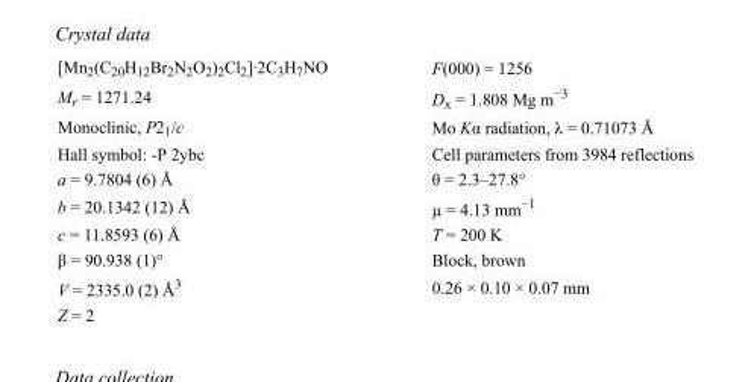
<table><tbody><tr><td>[Mn<sub>2</sub>(C<sub>20</sub>H<sub>12</sub>Br<sub>2</sub>N<sub>2</sub>O<sub>2</sub>)<sub>2</sub>Cl<sub>2</sub>]·2C<sub>3</sub>H<sub>7</sub>NO</td><td>F(000) = 1256</td></tr><tr><td>M<sub>r</sub> = 1271.24</td><td>D<sub>x</sub> = 1.808 Mg m<sup>−3</sup></td></tr><tr><td>Monoclinic, P2<sub>1</sub>/c</td><td>Mo Kα radiation, λ = 0.71073 Å</td></tr><tr><td>Hall symbol: -P 2ybc</td><td>Cell parameters from 3984 reflections</td></tr><tr><td>a = 9.7804 (6) Å</td><td>θ = 2.3–27.8°</td></tr><tr><td>b = 20.1342 (12) Å</td><td>µ = 4.13 mm<sup>−1</sup></td></tr><tr><td>c = 11.8593 (6) Å</td><td>T = 200 K</td></tr><tr><td>β = 90.938 (1)°</td><td>Block, brown</td></tr><tr><td>V = 2335.0 (2) Å<sup>3</sup></td><td>0.26 × 0.10 × 0.07 mm</td></tr><tr><td>Z = 2</td><td></td></tr></tbody></table>